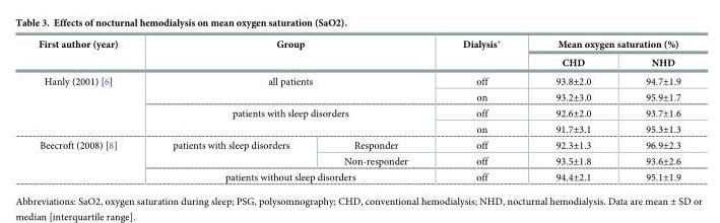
<table><thead><tr><td rowspan="2">First author (year)</td><td rowspan="2" colspan="2">Group</td><td rowspan="2">Dialysis*</td><td colspan="2">Mean oxygen saturation (%)</td></tr><tr><td>CHD</td><td>NHD</td></tr></thead><tbody><tr><td rowspan="4">Hanly (2001) [6]</td><td rowspan="2" colspan="2">all patients</td><td>off</td><td>93.8±2.0</td><td>94.7±1.9</td></tr><tr><td>on</td><td>93.2±3.0</td><td>95.9±1.7</td></tr><tr><td rowspan="2" colspan="2">patients with sleep disorders</td><td>off</td><td>92.6±2.0</td><td>93.7±1.6</td></tr><tr><td>on</td><td>91.7±3.1</td><td>95.3±1.3</td></tr><tr><td rowspan="3">Beecroft (2008) [8]</td><td rowspan="2">patients with sleep disorders</td><td>Responder</td><td>off</td><td>92.3±1.3</td><td>96.9±2.3</td></tr><tr><td>Non-responder</td><td>off</td><td>93.5±1.8</td><td>93.6±2.6</td></tr><tr><td colspan="2">patients without sleep disorders</td><td>off</td><td>94.4±2.1</td><td>95.1±1.9</td></tr></tbody></table>